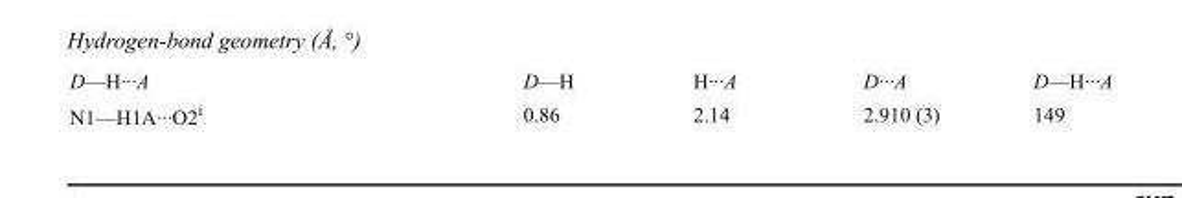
<table><tbody><tr><td>D—H···A</td><td>D—H</td><td>H···A</td><td>D···A</td><td>D—H···A</td></tr><tr><td>N1—H1A···O2<sup>i</sup></td><td>0.86</td><td>2.14</td><td>2.910 (3)</td><td>149</td></tr></tbody></table>